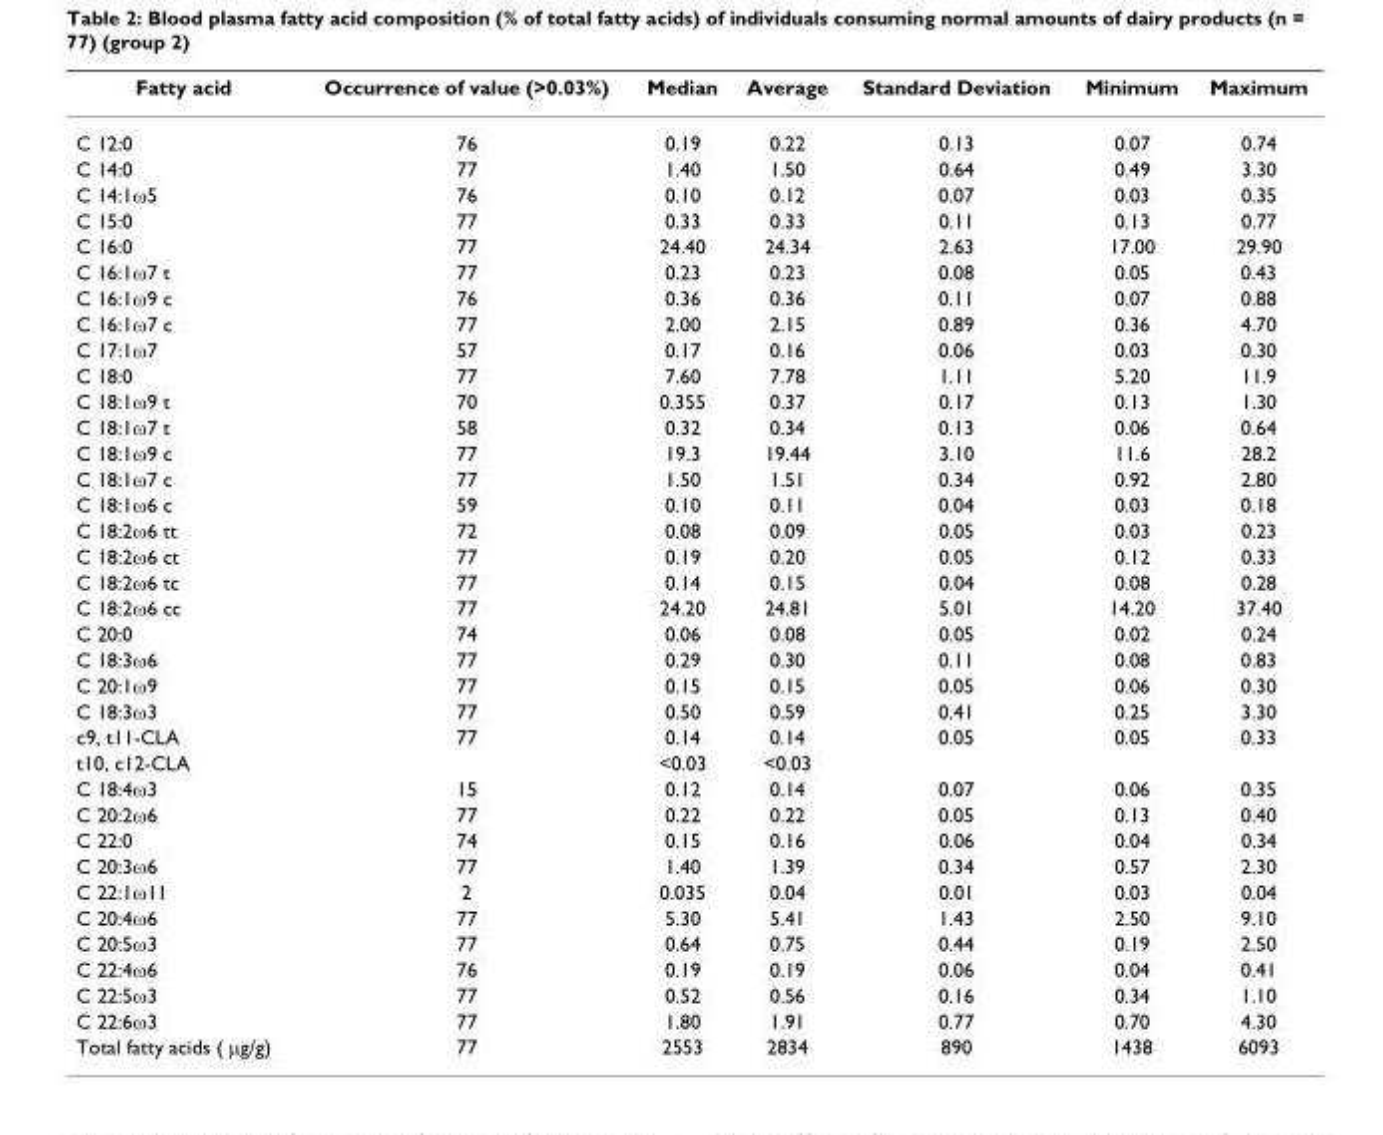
<table><thead><tr><td>Fatty acid</td><td>Occurrence of value (&gt;0.03%)</td><td>Median</td><td>Average</td><td>Standard Deviation</td><td>Minimum</td><td>Maximum</td></tr></thead><tbody><tr><td>C 12:0</td><td>76</td><td>0.19</td><td>0.22</td><td>0.13</td><td>0.07</td><td>0.74</td></tr><tr><td>C 14:0</td><td>77</td><td>1.40</td><td>1.50</td><td>0.64</td><td>0.49</td><td>3.30</td></tr><tr><td>C 14:1ω5</td><td>76</td><td>0.10</td><td>0.12</td><td>0.07</td><td>0.03</td><td>0.35</td></tr><tr><td>C 15:0</td><td>77</td><td>0.33</td><td>0.33</td><td>0.11</td><td>0.13</td><td>0.77</td></tr><tr><td>C 16:0</td><td>77</td><td>24.40</td><td>24.34</td><td>2.63</td><td>17.00</td><td>29.90</td></tr><tr><td>C 16:1ω7 t</td><td>77</td><td>0.23</td><td>0.23</td><td>0.08</td><td>0.05</td><td>0.43</td></tr><tr><td>C 16:1ω9 c</td><td>76</td><td>0.36</td><td>0.36</td><td>0.11</td><td>0.07</td><td>0.88</td></tr><tr><td>C 16:1ω7 c</td><td>77</td><td>2.00</td><td>2.15</td><td>0.89</td><td>0.36</td><td>4.70</td></tr><tr><td>C 17:1ω7</td><td>57</td><td>0.17</td><td>0.16</td><td>0.06</td><td>0.03</td><td>0.30</td></tr><tr><td>C 18:0</td><td>77</td><td>7.60</td><td>7.78</td><td>1.11</td><td>5.20</td><td>11.9</td></tr><tr><td>C 18:1ω9 t</td><td>70</td><td>0.355</td><td>0.37</td><td>0.17</td><td>0.13</td><td>1.30</td></tr><tr><td>C 18:1ω7 t</td><td>58</td><td>0.32</td><td>0.34</td><td>0.13</td><td>0.06</td><td>0.64</td></tr><tr><td>C 18:1ω9 c</td><td>77</td><td>19.3</td><td>19.44</td><td>3.10</td><td>11.6</td><td>28.2</td></tr><tr><td>C 18:1ω7 c</td><td>77</td><td>1.50</td><td>1.51</td><td>0.34</td><td>0.92</td><td>2.80</td></tr><tr><td>C 18:1ω6 c</td><td>59</td><td>0.10</td><td>0.11</td><td>0.04</td><td>0.03</td><td>0.18</td></tr><tr><td>C 18:2ω6 tt</td><td>72</td><td>0.08</td><td>0.09</td><td>0.05</td><td>0.03</td><td>0.23</td></tr><tr><td>C 18:2ω6 ct</td><td>77</td><td>0.19</td><td>0.20</td><td>0.05</td><td>0.12</td><td>0.33</td></tr><tr><td>C 18:2ω6 tc</td><td>77</td><td>0.14</td><td>0.15</td><td>0.04</td><td>0.08</td><td>0.28</td></tr><tr><td>C 18:2ω6 cc</td><td>77</td><td>24.20</td><td>24.81</td><td>5.01</td><td>14.20</td><td>37.40</td></tr><tr><td>C 20:0</td><td>74</td><td>0.06</td><td>0.08</td><td>0.05</td><td>0.02</td><td>0.24</td></tr><tr><td>C 18:3ω6</td><td>77</td><td>0.29</td><td>0.30</td><td>0.11</td><td>0.08</td><td>0.83</td></tr><tr><td>C 20:1ω9</td><td>77</td><td>0.15</td><td>0.15</td><td>0.05</td><td>0.06</td><td>0.30</td></tr><tr><td>C 18:3ω3</td><td>77</td><td>0.50</td><td>0.59</td><td>0.41</td><td>0.25</td><td>3.30</td></tr><tr><td>c9, t11-CLA</td><td>77</td><td>0.14</td><td>0.14</td><td>0.05</td><td>0.05</td><td>0.33</td></tr><tr><td>t10, c12-CLA</td><td></td><td>&lt;0.03</td><td>&lt;0.03</td><td></td><td></td><td></td></tr><tr><td>C 18:4ω3</td><td>15</td><td>0.12</td><td>0.14</td><td>0.07</td><td>0.06</td><td>0.35</td></tr><tr><td>C 20:2ω6</td><td>77</td><td>0.22</td><td>0.22</td><td>0.05</td><td>0.13</td><td>0.40</td></tr><tr><td>C 22:0</td><td>74</td><td>0.15</td><td>0.16</td><td>0.06</td><td>0.04</td><td>0.34</td></tr><tr><td>C 20:3ω6</td><td>77</td><td>1.40</td><td>1.39</td><td>0.34</td><td>0.57</td><td>2.30</td></tr><tr><td>C 22:1ω11</td><td>2</td><td>0.035</td><td>0.04</td><td>0.01</td><td>0.03</td><td>0.04</td></tr><tr><td>C 20:4ω6</td><td>77</td><td>5.30</td><td>5.41</td><td>1.43</td><td>2.50</td><td>9.10</td></tr><tr><td>C 20:5ω3</td><td>77</td><td>0.64</td><td>0.75</td><td>0.44</td><td>0.19</td><td>2.50</td></tr><tr><td>C 22:4ω6</td><td>76</td><td>0.19</td><td>0.19</td><td>0.06</td><td>0.04</td><td>0.41</td></tr><tr><td>C 22:5ω3</td><td>77</td><td>0.52</td><td>0.56</td><td>0.16</td><td>0.34</td><td>1.10</td></tr><tr><td>C 22:6ω3</td><td>77</td><td>1.80</td><td>1.91</td><td>0.77</td><td>0.70</td><td>4.30</td></tr><tr><td>Total fatty acids ( μg/g)</td><td>77</td><td>2553</td><td>2834</td><td>890</td><td>1438</td><td>6093</td></tr></tbody></table>